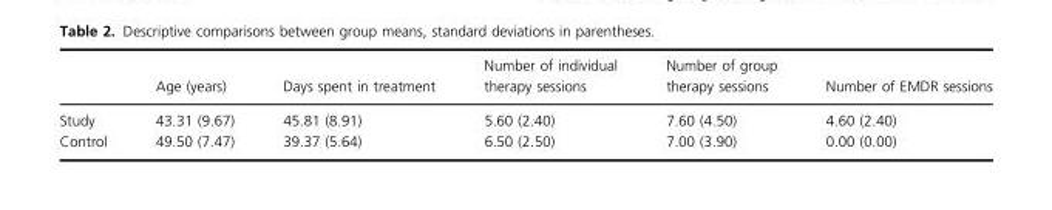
<table><thead><tr><td></td><td>Age (years)</td><td>Days spent in treatment</td><td>Number of individual therapy sessions</td><td>Number of group therapy sessions</td><td>Number of EMDR sessions</td></tr></thead><tbody><tr><td>Study</td><td>43.31 (9.67)</td><td>45.81 (8.91)</td><td>5.60 (2.40)</td><td>7.60 (4.50)</td><td>4.60 (2.40)</td></tr><tr><td>Control</td><td>49.50 (7.47)</td><td>39.37 (5.64)</td><td>6.50 (2.50)</td><td>7.00 (3.90)</td><td>0.00 (0.00)</td></tr></tbody></table>